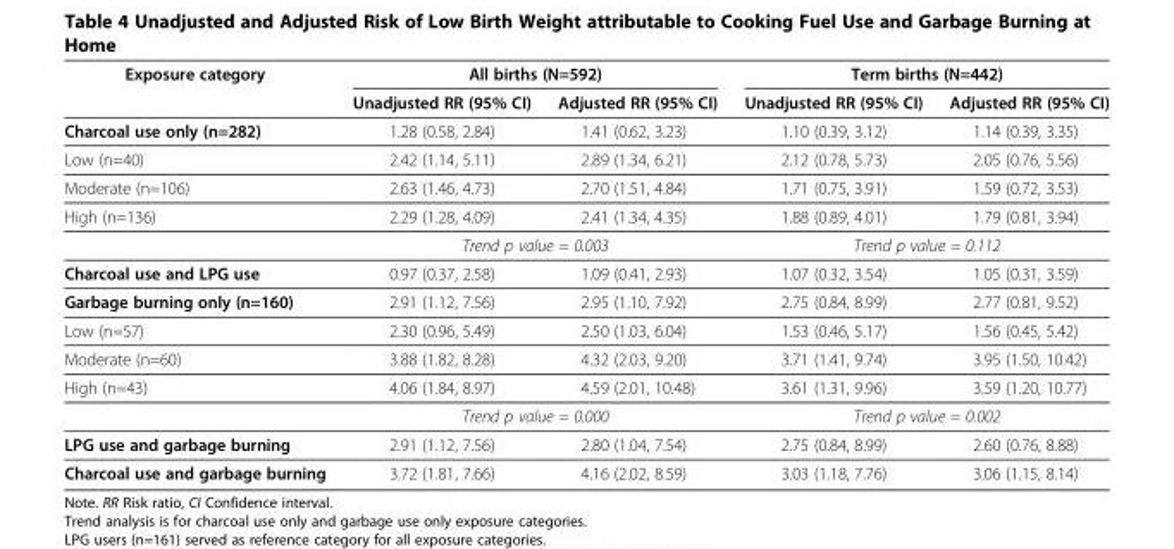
<table><thead><tr><td rowspan="2">Exposure category</td><td colspan="2">All births (N=592)</td><td colspan="2">Term births (N=442)</td></tr><tr><td>Unadjusted RR (95% CI)</td><td>Adjusted RR (95% CI)</td><td>Unadjusted RR (95% CI)</td><td>Adjusted RR (95% CI)</td></tr></thead><tbody><tr><td>Charcoal use only (n=282)</td><td>1.28 (0.58, 2.84)</td><td>1.41 (0.62, 3.23)</td><td>1.10 (0.39, 3.12)</td><td>1.14 (0.39, 3.35)</td></tr><tr><td>Low (n=40)</td><td>2.42 (1.14, 5.11)</td><td>2.89 (1.34, 6.21)</td><td>2.12 (0.78, 5.73)</td><td>2.05 (0.76, 5.56)</td></tr><tr><td>Moderate (n=106)</td><td>2.63 (1.46, 4.73)</td><td>2.70 (1.51, 4.84)</td><td>1.71 (0.75, 3.91)</td><td>1.59 (0.72, 3.53)</td></tr><tr><td rowspan="2">High (n=136)</td><td>2.29 (1.28, 4.09)</td><td>2.41 (1.34, 4.35)</td><td>1.88 (0.89, 4.01)</td><td>1.79 (0.81, 3.94)</td></tr><tr><td colspan="2">Trend p value = 0.003</td><td colspan="2">Trend p value = 0.112</td></tr><tr><td>Charcoal use and LPG use</td><td>0.97 (0.37, 2.58)</td><td>1.09 (0.41, 2.93)</td><td>1.07 (0.32, 3.54)</td><td>1.05 (0.31, 3.59)</td></tr><tr><td>Garbage burning only (n=160)</td><td>2.91 (1.12, 7.56)</td><td>2.95 (1.10, 7.92)</td><td>2.75 (0.84, 8.99)</td><td>2.77 (0.81, 9.52)</td></tr><tr><td>Low (n=57)</td><td>2.30 (0.96, 5.49)</td><td>2.50 (1.03, 6.04)</td><td>1.53 (0.46, 5.17)</td><td>1.56 (0.45, 5.42)</td></tr><tr><td>Moderate (n=60)</td><td>3.88 (1.82, 8.28)</td><td>4.32 (2.03, 9.20)</td><td>3.71 (1.41, 9.74)</td><td>3.95 (1.50, 10.42)</td></tr><tr><td rowspan="2">High (n=43)</td><td>4.06 (1.84, 8.97)</td><td>4.59 (2.01, 10.48)</td><td>3.61 (1.31, 9.96)</td><td>3.59 (1.20, 10.77)</td></tr><tr><td colspan="2">Trend p value = 0.000</td><td colspan="2">Trend p value = 0.002</td></tr><tr><td>LPG use and garbage burning</td><td>2.91 (1.12, 7.56)</td><td>2.80 (1.04, 7.54)</td><td>2.75 (0.84, 8.99)</td><td>2.60 (0.76, 8.88)</td></tr><tr><td>Charcoal use and garbage burning</td><td>3.72 (1.81, 7.66)</td><td>4.16 (2.02, 8.59)</td><td>3.03 (1.18, 7.76)</td><td>3.06 (1.15, 8.14)</td></tr></tbody></table>